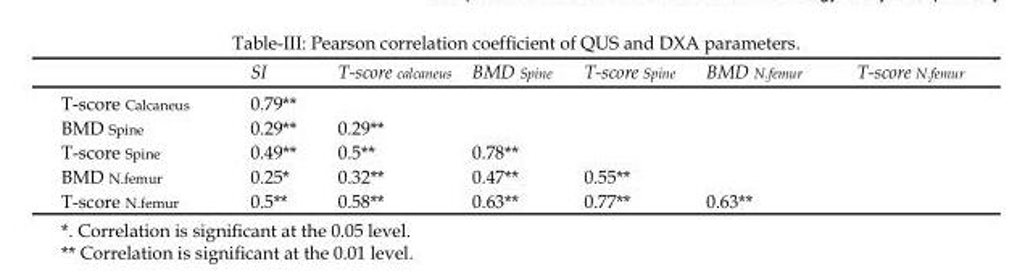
<table><thead><tr><td></td><td>SI</td><td>T-score <sub>calcaneus</sub></td><td>BMD <sub>Spine</sub></td><td>T-score <sub>Spine</sub></td><td>BMD N.femur</td><td>T-score <sub>N.femur</sub></td></tr></thead><tbody><tr><td>T-score <sub>Calcaneus</sub></td><td>0.79**</td><td></td><td></td><td></td><td></td><td></td></tr><tr><td>BMD <sub>Spine</sub></td><td>0.29**</td><td>0.29**</td><td></td><td></td><td></td><td></td></tr><tr><td>T-score <sub>Spine</sub></td><td>0.49**</td><td>0.5**</td><td>0.78**</td><td></td><td></td><td></td></tr><tr><td>BMD N.femur</td><td>0.25*</td><td>0.32**</td><td>0.47**</td><td>0.55**</td><td></td><td></td></tr><tr><td>T-score <sub>N.femur</sub></td><td>0.5**</td><td>0.58**</td><td>0.63**</td><td>0.77**</td><td>0.63**</td><td></td></tr></tbody></table>